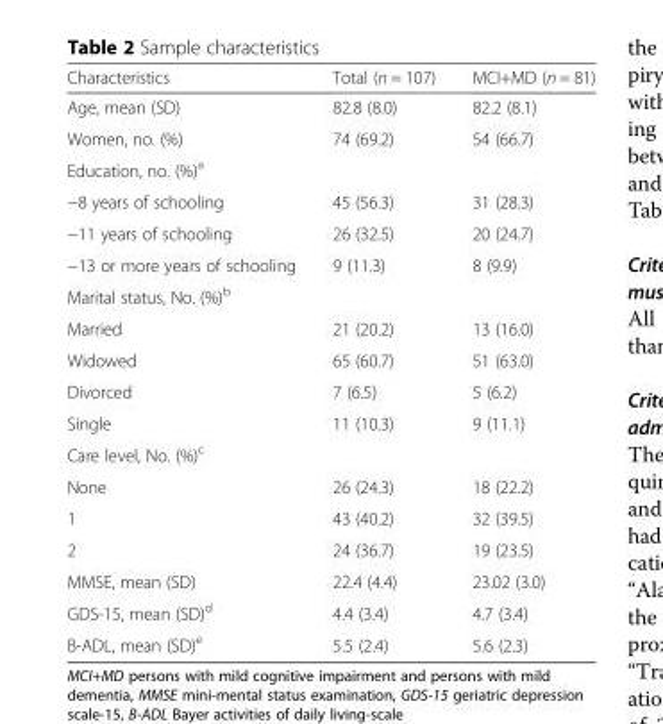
<table><thead><tr><td>Characteristics</td><td>Total (n = 107)</td><td>MCI+MD (n = 81)</td></tr></thead><tbody><tr><td>Age, mean (SD)</td><td>82.8 (8.0)</td><td>82.2 (8.1)</td></tr><tr><td>Women, no. (%)</td><td>74 (69.2)</td><td>54 (66.7)</td></tr><tr><td colspan="3">Education, no. (%)<sup>a</sup></td></tr><tr><td>−8 years of schooling</td><td>45 (56.3)</td><td>31 (28.3)</td></tr><tr><td>−11 years of schooling</td><td>26 (32.5)</td><td>20 (24.7)</td></tr><tr><td>−13 or more years of schooling</td><td>9 (11.3)</td><td>8 (9.9)</td></tr><tr><td colspan="3">Marital status, No. (%)<sup>b</sup></td></tr><tr><td>Married</td><td>21 (20.2)</td><td>13 (16.0)</td></tr><tr><td>Widowed</td><td>65 (60.7)</td><td>51 (63.0)</td></tr><tr><td>Divorced</td><td>7 (6.5)</td><td>5 (6.2)</td></tr><tr><td>Single</td><td>11 (10.3)</td><td>9 (11.1)</td></tr><tr><td colspan="3">Care level, No. (%)<sup>c</sup></td></tr><tr><td>None</td><td>26 (24.3)</td><td>18 (22.2)</td></tr><tr><td>1</td><td>43 (40.2)</td><td>32 (39.5)</td></tr><tr><td>2</td><td>24 (36.7)</td><td>19 (23.5)</td></tr><tr><td>MMSE, mean (SD)</td><td>22.4 (4.4)</td><td>23.02 (3.0)</td></tr><tr><td>GDS-15, mean (SD)<sup>d</sup></td><td>4.4 (3.4)</td><td>4.7 (3.4)</td></tr><tr><td>B-ADL, mean (SD)<sup>e</sup></td><td>5.5 (2.4)</td><td>5.6 (2.3)</td></tr></tbody></table>